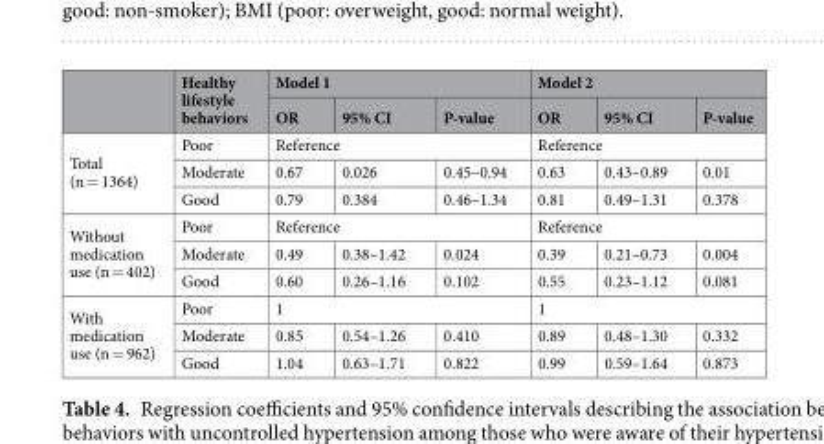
<table><thead><tr><td rowspan="2"></td><td rowspan="2">Healthy lifestyle behaviors</td><td colspan="3">Model 1</td><td colspan="3">Model 2</td></tr><tr><td>OR</td><td>95% CI</td><td>P-value</td><td>OR</td><td>95% CI</td><td>P-value</td></tr></thead><tbody><tr><td rowspan="3">Total (n = 1364)</td><td>Poor</td><td colspan="3">Reference</td><td colspan="3">Reference</td></tr><tr><td>Moderate</td><td>0.67</td><td>0.026</td><td>0.45–0.94</td><td>0.63</td><td>0.43–0.89</td><td>0.01</td></tr><tr><td>Good</td><td>0.79</td><td>0.384</td><td>0.46–1.34</td><td>0.81</td><td>0.49–1.31</td><td>0.378</td></tr><tr><td rowspan="3">Without medication use (n = 402)</td><td>Poor</td><td colspan="3">Reference</td><td colspan="3">Reference</td></tr><tr><td>Moderate</td><td>0.49</td><td>0.38–1.42</td><td>0.024</td><td>0.39</td><td>0.21–0.73</td><td>0.004</td></tr><tr><td>Good</td><td>0.60</td><td>0.26–1.16</td><td>0.102</td><td>0.55</td><td>0.23–1.12</td><td>0.081</td></tr><tr><td rowspan="3">With medication use (n = 962)</td><td>Poor</td><td colspan="3">1</td><td colspan="3">1</td></tr><tr><td>Moderate</td><td>0.85</td><td>0.54–1.26</td><td>0.410</td><td>0.89</td><td>0.48–1.30</td><td>0.332</td></tr><tr><td>Good</td><td>1.04</td><td>0.63–1.71</td><td>0.822</td><td>0.99</td><td>0.59–1.64</td><td>0.873</td></tr></tbody></table>